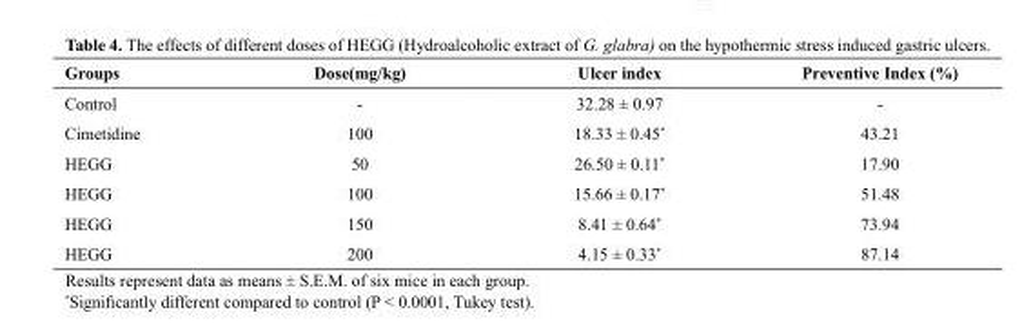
<table><thead><tr><td>Groups</td><td>Dose(mg/kg)</td><td>Ulcer index</td><td>Preventive Index (%)</td></tr></thead><tbody><tr><td>Control</td><td>-</td><td>32.28 ± 0.97</td><td>-</td></tr><tr><td>Cimetidine</td><td>100</td><td>18.33 ± 0.45*</td><td>43.21</td></tr><tr><td>HEGG</td><td>50</td><td>26.50 ± 0.11*</td><td>17.90</td></tr><tr><td>HEGG</td><td>100</td><td>15.66 ± 0.17*</td><td>51.48</td></tr><tr><td>HEGG</td><td>150</td><td>8.41 ± 0.64*</td><td>73.94</td></tr><tr><td>HEGG</td><td>200</td><td>4.15 ± 0.33*</td><td>87.14</td></tr></tbody></table>